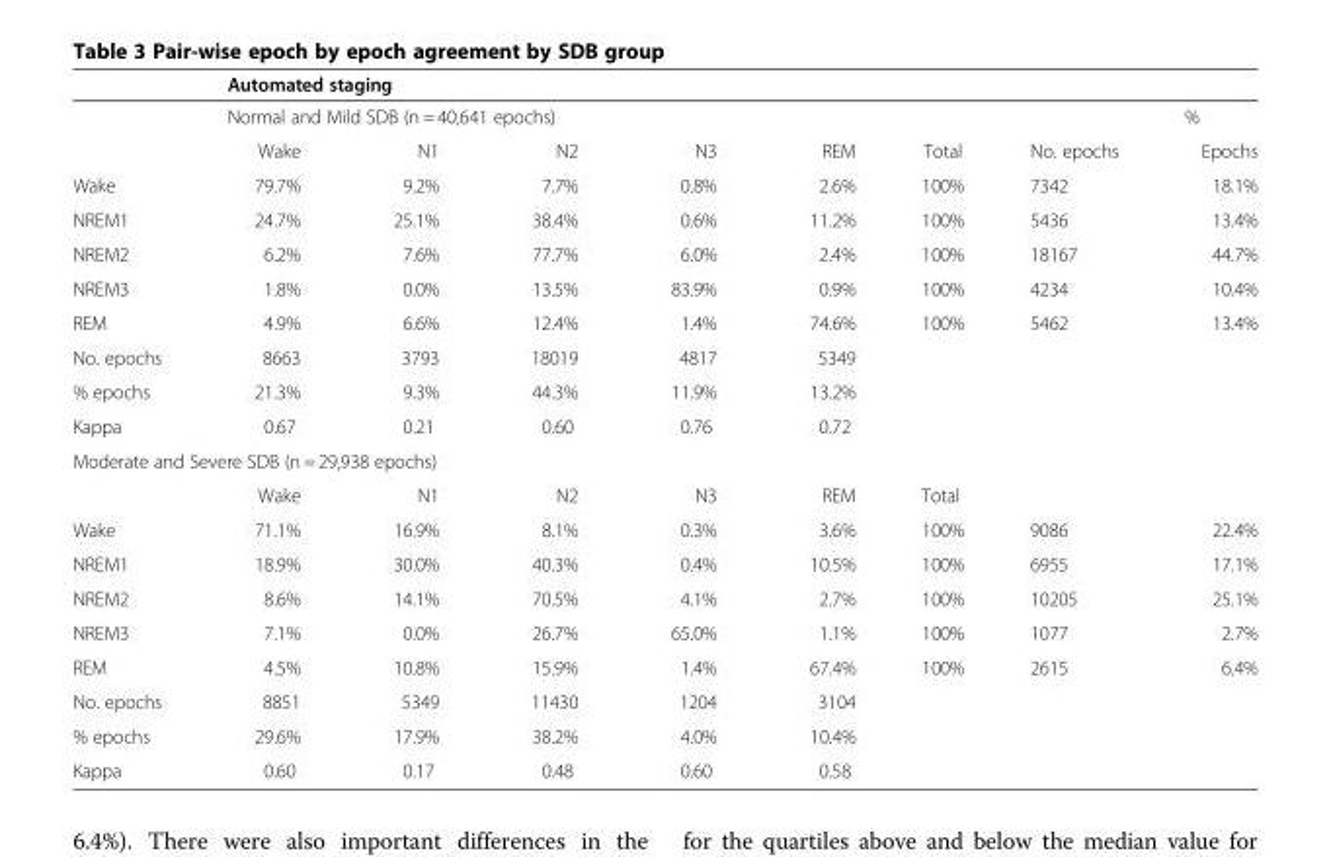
<table><thead><tr><td rowspan="3"></td><td rowspan="2" colspan="6">Automated staging Normal and Mild SDB (n = 40,641 epochs)</td><td rowspan="3">No. epochs</td><td rowspan="3">% Epochs</td></tr><tr></tr><tr><td>Wake</td><td>N1</td><td>N2</td><td>N3</td><td>REM</td><td>Total</td></tr></thead><tbody><tr><td>Wake</td><td>79.7%</td><td>9.2%</td><td>7.7%</td><td>0.8%</td><td>2.6%</td><td>100%</td><td>7342</td><td>18.1%</td></tr><tr><td>NREM1</td><td>24.7%</td><td>25.1%</td><td>38.4%</td><td>0.6%</td><td>11.2%</td><td>100%</td><td>5436</td><td>13.4%</td></tr><tr><td>NREM2</td><td>6.2%</td><td>7.6%</td><td>77.7%</td><td>6.0%</td><td>2.4%</td><td>100%</td><td>18167</td><td>44.7%</td></tr><tr><td>NREM3</td><td>1.8%</td><td>0.0%</td><td>13.5%</td><td>83.9%</td><td>0.9%</td><td>100%</td><td>4234</td><td>10.4%</td></tr><tr><td>REM</td><td>4.9%</td><td>6.6%</td><td>12.4%</td><td>1.4%</td><td>74.6%</td><td>100%</td><td>5462</td><td>13.4%</td></tr><tr><td>No. epochs</td><td>8663</td><td>3793</td><td>18019</td><td>4817</td><td>5349</td><td></td><td></td><td></td></tr><tr><td>% epochs</td><td>21.3%</td><td>9.3%</td><td>44.3%</td><td>11.9%</td><td>13.2%</td><td></td><td></td><td></td></tr><tr><td>Kappa</td><td>0.67</td><td>0.21</td><td>0.60</td><td>0.76</td><td>0.72</td><td></td><td></td><td></td></tr><tr><td colspan="9">Moderate and Severe SDB (n = 29,938 epochs)</td></tr><tr><td></td><td>Wake</td><td>N1</td><td>N2</td><td>N3</td><td>REM</td><td>Total</td><td></td><td></td></tr><tr><td>Wake</td><td>71.1%</td><td>16.9%</td><td>8.1%</td><td>0.3%</td><td>3.6%</td><td>100%</td><td>9086</td><td>22.4%</td></tr><tr><td>NREM1</td><td>18.9%</td><td>30.0%</td><td>40.3%</td><td>0.4%</td><td>10.5%</td><td>100%</td><td>6955</td><td>17.1%</td></tr><tr><td>NREM2</td><td>8.6%</td><td>14.1%</td><td>70.5%</td><td>4.1%</td><td>2.7%</td><td>100%</td><td>10205</td><td>25.1%</td></tr><tr><td>NREM3</td><td>7.1%</td><td>0.0%</td><td>26.7%</td><td>65.0%</td><td>1.1%</td><td>100%</td><td>1077</td><td>2.7%</td></tr><tr><td>REM</td><td>4.5%</td><td>10.8%</td><td>15.9%</td><td>1.4%</td><td>67.4%</td><td>100%</td><td>2615</td><td>6.4%</td></tr><tr><td>No. epochs</td><td>8851</td><td>5349</td><td>11430</td><td>1204</td><td>3104</td><td></td><td></td><td></td></tr><tr><td>% epochs</td><td>29.6%</td><td>17.9%</td><td>38.2%</td><td>4.0%</td><td>10.4%</td><td></td><td></td><td></td></tr><tr><td>Kappa</td><td>0.60</td><td>0.17</td><td>0.48</td><td>0.60</td><td>0.58</td><td></td><td></td><td></td></tr></tbody></table>